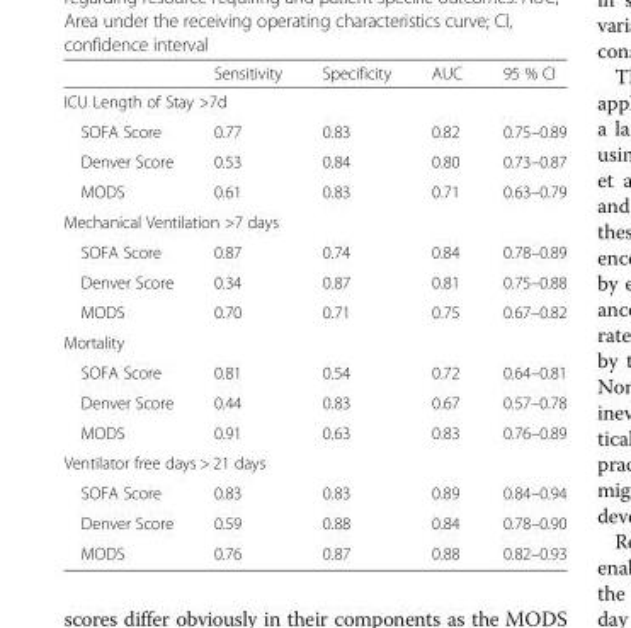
<table><thead><tr><td></td><td>Sensitivity</td><td>Specificity</td><td>AUC</td><td>95 % CI</td></tr></thead><tbody><tr><td colspan="5">ICU Length of Stay &gt;7d</td></tr><tr><td>SOFA Score</td><td>0.77</td><td>0.83</td><td>0.82</td><td>0.75–0.89</td></tr><tr><td>Denver Score</td><td>0.53</td><td>0.84</td><td>0.80</td><td>0.73–0.87</td></tr><tr><td>MODS</td><td>0.61</td><td>0.83</td><td>0.71</td><td>0.63–0.79</td></tr><tr><td colspan="5">Mechanical Ventilation &gt;7 days</td></tr><tr><td>SOFA Score</td><td>0.87</td><td>0.74</td><td>0.84</td><td>0.78–0.89</td></tr><tr><td>Denver Score</td><td>0.34</td><td>0.87</td><td>0.81</td><td>0.75–0.88</td></tr><tr><td>MODS</td><td>0.70</td><td>0.71</td><td>0.75</td><td>0.67–0.82</td></tr><tr><td colspan="5">Mortality</td></tr><tr><td>SOFA Score</td><td>0.81</td><td>0.54</td><td>0.72</td><td>0.64–0.81</td></tr><tr><td>Denver Score</td><td>0.44</td><td>0.83</td><td>0.67</td><td>0.57–0.78</td></tr><tr><td>MODS</td><td>0.91</td><td>0.63</td><td>0.83</td><td>0.76–0.89</td></tr><tr><td colspan="5">Ventilator free days &gt; 21 days</td></tr><tr><td>SOFA Score</td><td>0.83</td><td>0.83</td><td>0.89</td><td>0.84–0.94</td></tr><tr><td>Denver Score</td><td>0.59</td><td>0.88</td><td>0.84</td><td>0.78–0.90</td></tr><tr><td>MODS</td><td>0.76</td><td>0.87</td><td>0.88</td><td>0.82–0.93</td></tr></tbody></table>